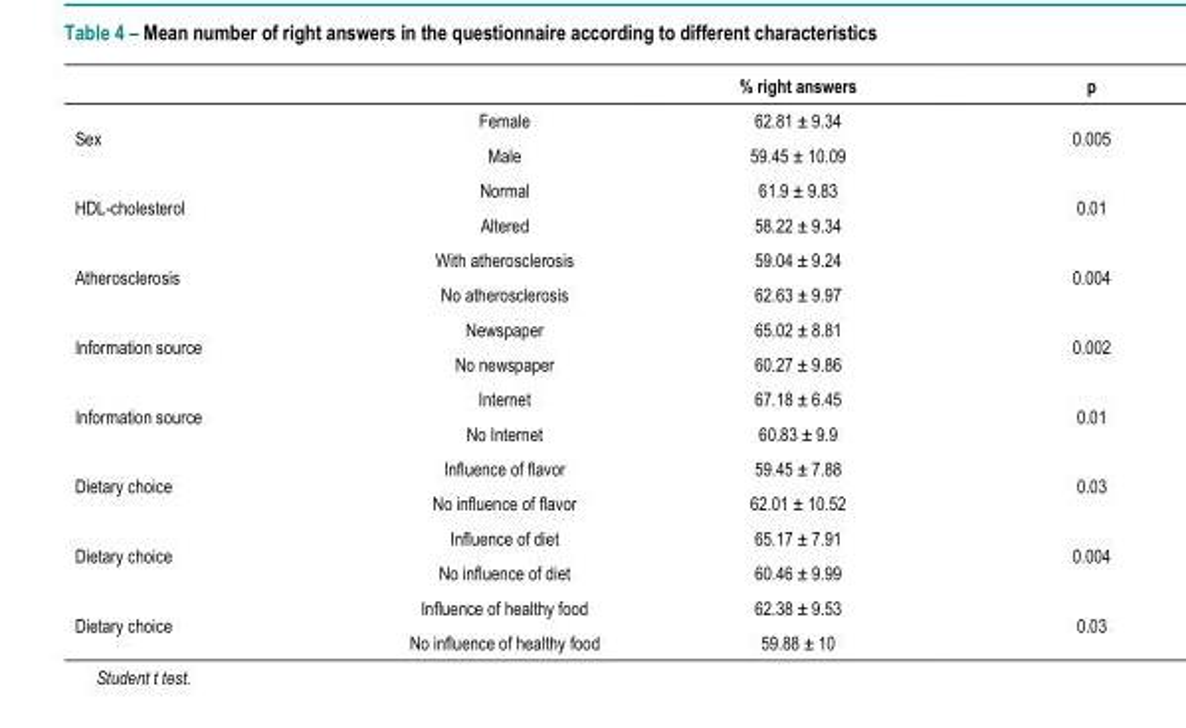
<table><thead><tr><td></td><td></td><td>% right answers</td><td>p</td></tr></thead><tbody><tr><td rowspan="2">Sex</td><td>Female</td><td>62.81 ± 9.34</td><td rowspan="2">0.005</td></tr><tr><td>Male</td><td>59.45 ± 10.09</td></tr><tr><td rowspan="2">HDL-cholesterol</td><td>Normal</td><td>61.9 ± 9.83</td><td rowspan="2">0.01</td></tr><tr><td>Altered</td><td>58.22 ± 9.34</td></tr><tr><td rowspan="2">Atherosclerosis</td><td>With atherosclerosis</td><td>59.04 ± 9.24</td><td rowspan="2">0.004</td></tr><tr><td>No atherosclerosis</td><td>62.63 ± 9.97</td></tr><tr><td rowspan="2">Information source</td><td>Newspaper</td><td>65.02 ± 8.81</td><td rowspan="2">0.002</td></tr><tr><td>No newspaper</td><td>60.27 ± 9.86</td></tr><tr><td rowspan="2">Information source</td><td>Internet</td><td>67.18 ± 6.45</td><td rowspan="2">0.01</td></tr><tr><td>No Internet</td><td>60.83 ± 9.9</td></tr><tr><td rowspan="2">Dietary choice</td><td>Influence of flavor</td><td>59.45 ± 7.88</td><td rowspan="2">0.03</td></tr><tr><td>No influence of flavor</td><td>62.01 ± 10.52</td></tr><tr><td rowspan="2">Dietary choice</td><td>Influence of diet</td><td>65.17 ± 7.91</td><td rowspan="2">0.004</td></tr><tr><td>No influence of diet</td><td>60.46 ± 9.99</td></tr><tr><td rowspan="2">Dietary choice</td><td>Influence of healthy food</td><td>62.38 ± 9.53</td><td rowspan="2">0.03</td></tr><tr><td>No influence of healthy food</td><td>59.88 ± 10</td></tr></tbody></table>